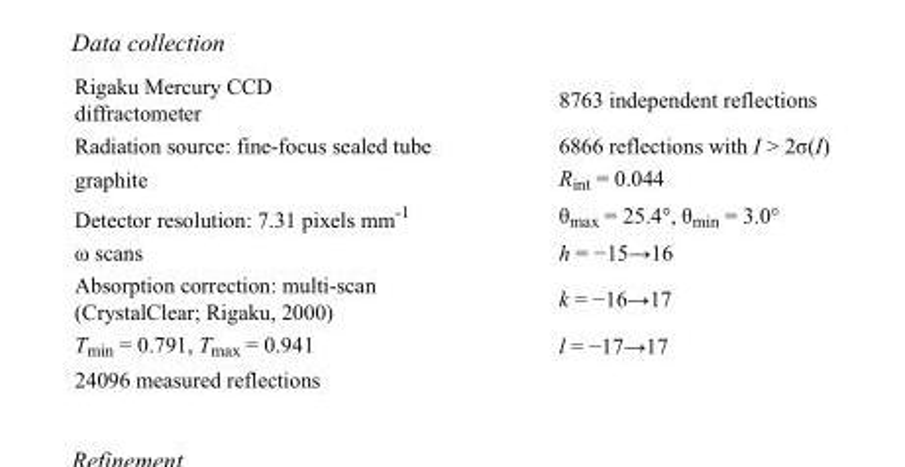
<table><tbody><tr><td>Rigaku Mercury CCD diffractometer</td><td>8763 independent reflections</td></tr><tr><td>Radiation source: fine-focus sealed tube</td><td>6866 reflections with I &gt; 2σ(I)</td></tr><tr><td>graphite</td><td>R<sub>int</sub> = 0.044</td></tr><tr><td>Detector resolution: 7.31 pixels mm<sup>-1</sup></td><td>θ<sub>max</sub> = 25.4°, θ<sub>min</sub> = 3.0°</td></tr><tr><td>ω scans</td><td>h = −15→16</td></tr><tr><td>Absorption correction: multi-scan (CrystalClear; Rigaku, 2000)</td><td>k = −16→17</td></tr><tr><td>T<sub>min</sub> = 0.791, T<sub>max</sub> = 0.941</td><td>l = −17→17</td></tr><tr><td>24096 measured reflections</td><td></td></tr></tbody></table>